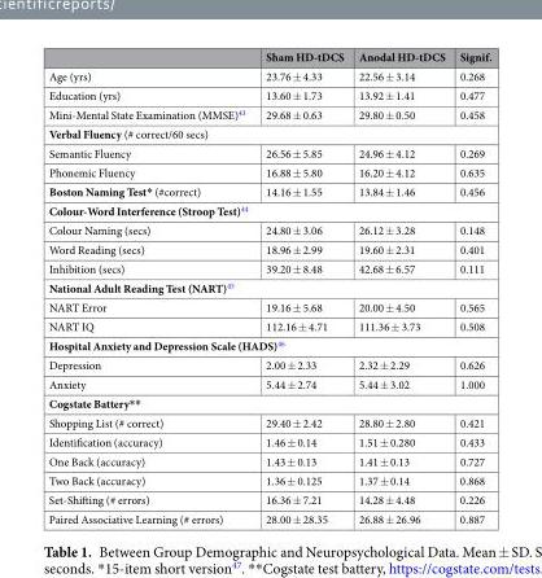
<table><thead><tr><td></td><td>Sham HD-tDCS</td><td>Anodal HD-tDCS</td><td>Signif.</td></tr></thead><tbody><tr><td>Age (yrs)</td><td>23.76 ± 4.33</td><td>22.56 ± 3.14</td><td>0.268</td></tr><tr><td>Education (yrs)</td><td>13.60 ± 1.73</td><td>13.92 ± 1.41</td><td>0.477</td></tr><tr><td>Mini-Mental State Examination (MMSE)<sup>43</sup></td><td>29.68 ± 0.63</td><td>29.80 ± 0.50</td><td>0.458</td></tr><tr><td colspan="4">Verbal Fluency (# correct/60 secs)</td></tr><tr><td>Semantic Fluency</td><td>26.56 ± 5.85</td><td>24.96 ± 4.12</td><td>0.269</td></tr><tr><td>Phonemic Fluency</td><td>16.88 ± 5.80</td><td>16.20 ± 4.12</td><td>0.635</td></tr><tr><td>Boston Naming Test* (#correct)</td><td>14.16 ± 1.55</td><td>13.84 ± 1.46</td><td>0.456</td></tr><tr><td colspan="4">Colour-Word Interference (Stroop Test)<sup>44</sup></td></tr><tr><td>Colour Naming (secs)</td><td>24.80 ± 3.06</td><td>26.12 ± 3.28</td><td>0.148</td></tr><tr><td>Word Reading (secs)</td><td>18.96 ± 2.99</td><td>19.60 ± 2.31</td><td>0.401</td></tr><tr><td>Inhibition (secs)</td><td>39.20 ± 8.48</td><td>42.68 ± 6.57</td><td>0.111</td></tr><tr><td colspan="4">National Adult Reading Test (NART)<sup>45</sup></td></tr><tr><td>NART Error</td><td>19.16 ± 5.68</td><td>20.00 ± 4.50</td><td>0.565</td></tr><tr><td>NART IQ</td><td>112.16 ± 4.71</td><td>111.36 ± 3.73</td><td>0.508</td></tr><tr><td colspan="4">Hospital Anxiety and Depression Scale (HADS)<sup>46</sup></td></tr><tr><td>Depression</td><td>2.00 ± 2.33</td><td>2.32 ± 2.29</td><td>0.626</td></tr><tr><td>Anxiety</td><td>5.44 ± 2.74</td><td>5.44 ± 3.02</td><td>1.000</td></tr><tr><td colspan="4">Cogstate Battery**</td></tr><tr><td>Shopping List (# correct)</td><td>29.40 ± 2.42</td><td>28.80 ± 2.80</td><td>0.421</td></tr><tr><td>Identification (accuracy)</td><td>1.46 ± 0.14</td><td>1.51 ± 0.280</td><td>0.433</td></tr><tr><td>One Back (accuracy)</td><td>1.43 ± 0.13</td><td>1.41 ± 0.13</td><td>0.727</td></tr><tr><td>Two Back (accuracy)</td><td>1.36 ± 0.125</td><td>1.37 ± 0.14</td><td>0.868</td></tr><tr><td>Set-Shifting (# errors)</td><td>16.36 ± 7.21</td><td>14.28 ± 4.48</td><td>0.226</td></tr><tr><td>Paired Associative Learning (# errors)</td><td>28.00 ± 28.35</td><td>26.88 ± 26.96</td><td>0.887</td></tr></tbody></table>